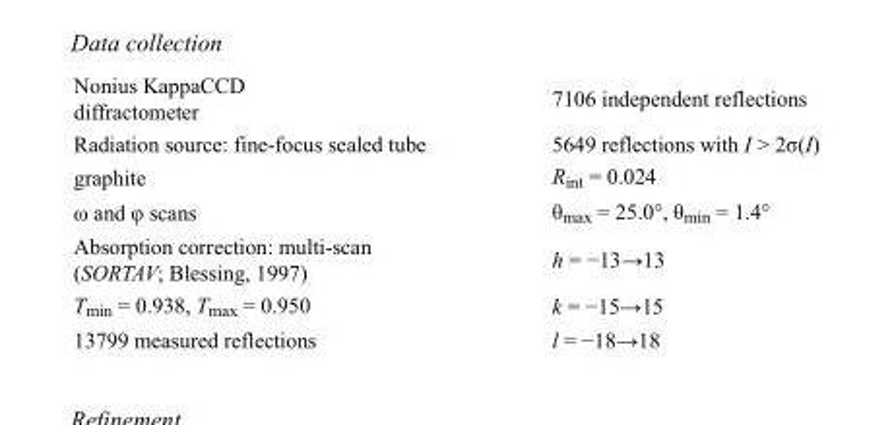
<table><tbody><tr><td>Nonius KappaCCD diffractometer</td><td>7106 independent reflections</td></tr><tr><td>Radiation source: fine-focus sealed tube</td><td>5649 reflections with I &gt; 2σ(I)</td></tr><tr><td>graphite</td><td>R<sub>int</sub> = 0.024</td></tr><tr><td>ω and φ scans</td><td>θ<sub>max</sub> = 25.0°, θ<sub>min</sub> = 1.4°</td></tr><tr><td>Absorption correction: multi-scan (SORTAV; Blessing, 1997)</td><td>h = −13→13</td></tr><tr><td>T<sub>min</sub> = 0.938, T<sub>max</sub> = 0.950</td><td>k = −15→15</td></tr><tr><td>13799 measured reflections</td><td>l = −18→18</td></tr></tbody></table>